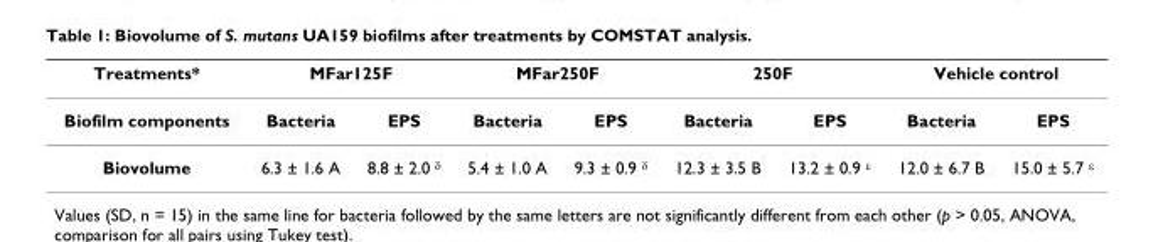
<table><thead><tr><td rowspan="2">Treatments* Biofilm components</td><td colspan="2">MFar125F</td><td colspan="2">MFar250F</td><td colspan="2">250F</td><td colspan="2">Vehicle control</td></tr><tr><td>Bacteria</td><td>EPS</td><td>Bacteria</td><td>EPS</td><td>Bacteria</td><td>EPS</td><td>Bacteria</td><td>EPS</td></tr></thead><tbody><tr><td>Biovolume</td><td>6.3 ± 1.6 A</td><td>8.8 ± 2.0 <sup>δ</sup></td><td>5.4 ± 1.0 A</td><td>9.3 ± 0.9 <sup>δ</sup></td><td>12.3 ± 3.5 B</td><td>13.2 ± 0.9 <sup>ε</sup></td><td>12.0 ± 6.7 B</td><td>15.0 ± 5.7 <sup>ε</sup></td></tr></tbody></table>